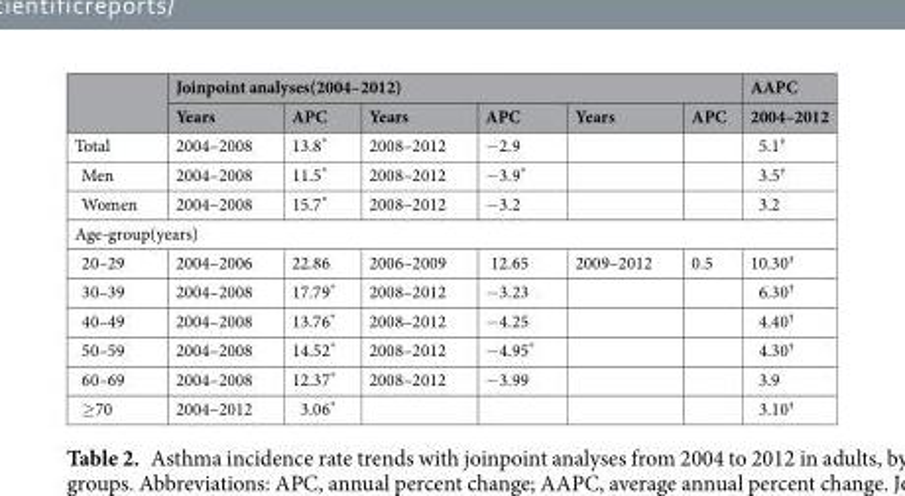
<table><thead><tr><td rowspan="2"></td><td colspan="6">Joinpoint analyses(2004–2012)</td><td rowspan="2">AAPC 2004–2012</td></tr><tr><td>Years</td><td>APC</td><td>Years</td><td>APC</td><td>Years</td><td>APC</td></tr></thead><tbody><tr><td>Total</td><td>2004–2008</td><td>13.8*</td><td>2008–2012</td><td>−2.9</td><td></td><td></td><td>5.1<sup>†</sup></td></tr><tr><td>Men</td><td>2004–2008</td><td>11.5*</td><td>2008–2012</td><td>−3.9*</td><td></td><td></td><td>3.5<sup>†</sup></td></tr><tr><td>Women</td><td>2004–2008</td><td>15.7*</td><td>2008–2012</td><td>−3.2</td><td></td><td></td><td>3.2</td></tr><tr><td colspan="8">Age-group(years)</td></tr><tr><td>20–29</td><td>2004–2006</td><td>22.86</td><td>2006–2009</td><td>12.65</td><td>2009–2012</td><td>0.5</td><td>10.30<sup>†</sup></td></tr><tr><td>30–39</td><td>2004–2008</td><td>17.79*</td><td>2008–2012</td><td>−3.23</td><td></td><td></td><td>6.30<sup>†</sup></td></tr><tr><td>40–49</td><td>2004–2008</td><td>13.76*</td><td>2008–2012</td><td>−4.25</td><td></td><td></td><td>4.40<sup>†</sup></td></tr><tr><td>50–59</td><td>2004–2008</td><td>14.52*</td><td>2008–2012</td><td>−4.95*</td><td></td><td></td><td>4.30<sup>†</sup></td></tr><tr><td>60–69</td><td>2004–2008</td><td>12.37*</td><td>2008–2012</td><td>−3.99</td><td></td><td></td><td>3.9</td></tr><tr><td>≥70</td><td>2004–2012</td><td>3.06*</td><td></td><td></td><td></td><td></td><td>3.10<sup>†</sup></td></tr></tbody></table>